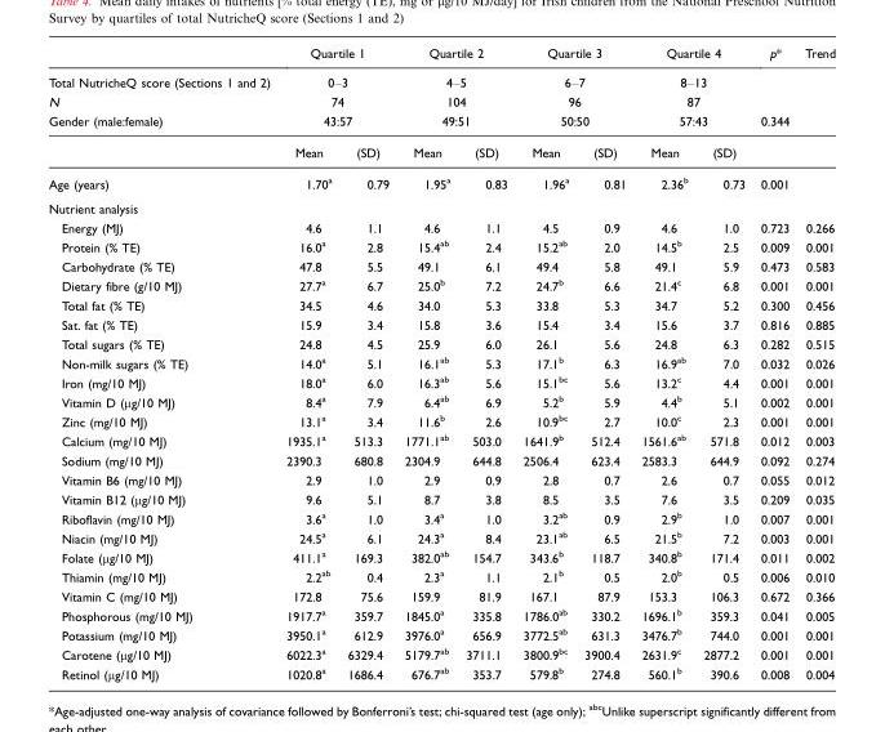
<table><thead><tr><td></td><td colspan="2">Quartile 1</td><td colspan="2">Quartile 2</td><td colspan="2">Quartile 3</td><td colspan="2">Quartile 4</td><td>p*</td><td>Trend</td></tr></thead><tbody><tr><td>Total NutricheQ score (Sections 1 and 2)</td><td colspan="2">0–3</td><td colspan="2">4–5</td><td colspan="2">6–7</td><td colspan="2">8–13</td><td></td><td></td></tr><tr><td>N</td><td colspan="2">74</td><td colspan="2">104</td><td colspan="2">96</td><td colspan="2">87</td><td></td><td></td></tr><tr><td rowspan="2">Gender (male:female)</td><td colspan="2">43:57</td><td colspan="2">49:51</td><td colspan="2">50:50</td><td colspan="2">57:43</td><td>0.344</td><td></td></tr><tr><td>Mean</td><td>(SD)</td><td>Mean</td><td>(SD)</td><td>Mean</td><td>(SD)</td><td>Mean</td><td>(SD)</td><td></td><td></td></tr><tr><td>Age (years)</td><td>1.70<sup>a</sup></td><td>0.79</td><td>1.95<sup>a</sup></td><td>0.83</td><td>1.96<sup>a</sup></td><td>0.81</td><td>2.36<sup>b</sup></td><td>0.73</td><td>0.001</td><td></td></tr><tr><td colspan="11">Nutrient analysis</td></tr><tr><td>Energy (MJ)</td><td>4.6</td><td>1.1</td><td>4.6</td><td>1.1</td><td>4.5</td><td>0.9</td><td>4.6</td><td>1.0</td><td>0.723</td><td>0.266</td></tr><tr><td>Protein (% TE)</td><td>16.0<sup>a</sup></td><td>2.8</td><td>15.4<sup>ab</sup></td><td>2.4</td><td>15.2<sup>ab</sup></td><td>2.0</td><td>14.5<sup>b</sup></td><td>2.5</td><td>0.009</td><td>0.001</td></tr><tr><td>Carbohydrate (% TE)</td><td>47.8</td><td>5.5</td><td>49.1</td><td>6.1</td><td>49.4</td><td>5.8</td><td>49.1</td><td>5.9</td><td>0.473</td><td>0.583</td></tr><tr><td>Dietary fibre (g/10 MJ)</td><td>27.7<sup>a</sup></td><td>6.7</td><td>25.0<sup>b</sup></td><td>7.2</td><td>24.7<sup>b</sup></td><td>6.6</td><td>21.4<sup>c</sup></td><td>6.8</td><td>0.001</td><td>0.001</td></tr><tr><td>Total fat (% TE)</td><td>34.5</td><td>4.6</td><td>34.0</td><td>5.3</td><td>33.8</td><td>5.3</td><td>34.7</td><td>5.2</td><td>0.300</td><td>0.456</td></tr><tr><td>Sat. fat (% TE)</td><td>15.9</td><td>3.4</td><td>15.8</td><td>3.6</td><td>15.4</td><td>3.4</td><td>15.6</td><td>3.7</td><td>0.816</td><td>0.885</td></tr><tr><td>Total sugars (% TE)</td><td>24.8</td><td>4.5</td><td>25.9</td><td>6.0</td><td>26.1</td><td>5.6</td><td>24.8</td><td>6.3</td><td>0.282</td><td>0.515</td></tr><tr><td>Non-milk sugars (% TE)</td><td>14.0<sup>a</sup></td><td>5.1</td><td>16.1<sup>ab</sup></td><td>5.3</td><td>17.1<sup>b</sup></td><td>6.3</td><td>16.9<sup>ab</sup></td><td>7.0</td><td>0.032</td><td>0.026</td></tr><tr><td>Iron (mg/10 MJ)</td><td>18.0<sup>a</sup></td><td>6.0</td><td>16.3<sup>ab</sup></td><td>5.6</td><td>15.1<sup>bc</sup></td><td>5.6</td><td>13.2<sup>c</sup></td><td>4.4</td><td>0.001</td><td>0.001</td></tr><tr><td>Vitamin D (µg/10 MJ)</td><td>8.4<sup>a</sup></td><td>7.9</td><td>6.4<sup>ab</sup></td><td>6.9</td><td>5.2<sup>b</sup></td><td>5.9</td><td>4.4<sup>b</sup></td><td>5.1</td><td>0.002</td><td>0.001</td></tr><tr><td>Zinc (mg/10 MJ)</td><td>13.1<sup>a</sup></td><td>3.4</td><td>11.6<sup>b</sup></td><td>2.6</td><td>10.9<sup>bc</sup></td><td>2.7</td><td>10.0<sup>c</sup></td><td>2.3</td><td>0.001</td><td>0.001</td></tr><tr><td>Calcium (mg/10 MJ)</td><td>1935.1<sup>a</sup></td><td>513.3</td><td>1771.1<sup>ab</sup></td><td>503.0</td><td>1641.9<sup>b</sup></td><td>512.4</td><td>1561.6<sup>ab</sup></td><td>571.8</td><td>0.012</td><td>0.003</td></tr><tr><td>Sodium (mg/10 MJ)</td><td>2390.3</td><td>680.8</td><td>2304.9</td><td>644.8</td><td>2506.4</td><td>623.4</td><td>2583.3</td><td>644.9</td><td>0.092</td><td>0.274</td></tr><tr><td>Vitamin B6 (mg/10 MJ)</td><td>2.9</td><td>1.0</td><td>2.9</td><td>0.9</td><td>2.8</td><td>0.7</td><td>2.6</td><td>0.7</td><td>0.055</td><td>0.012</td></tr><tr><td>Vitamin B12 (µg/10 MJ)</td><td>9.6</td><td>5.1</td><td>8.7</td><td>3.8</td><td>8.5</td><td>3.5</td><td>7.6</td><td>3.5</td><td>0.209</td><td>0.035</td></tr><tr><td>Riboflavin (mg/10 MJ)</td><td>3.6<sup>a</sup></td><td>1.0</td><td>3.4<sup>a</sup></td><td>1.0</td><td>3.2<sup>ab</sup></td><td>0.9</td><td>2.9<sup>b</sup></td><td>1.0</td><td>0.007</td><td>0.001</td></tr><tr><td>Niacin (mg/10 MJ)</td><td>24.5<sup>a</sup></td><td>6.1</td><td>24.3<sup>a</sup></td><td>8.4</td><td>23.1<sup>ab</sup></td><td>6.5</td><td>21.5<sup>b</sup></td><td>7.2</td><td>0.003</td><td>0.001</td></tr><tr><td>Folate (µg/10 MJ)</td><td>411.1<sup>a</sup></td><td>169.3</td><td>382.0<sup>ab</sup></td><td>154.7</td><td>343.6<sup>b</sup></td><td>118.7</td><td>340.8<sup>b</sup></td><td>171.4</td><td>0.011</td><td>0.002</td></tr><tr><td>Thiamin (mg/10 MJ)</td><td>2.2<sup>ab</sup></td><td>0.4</td><td>2.3<sup>a</sup></td><td>1.1</td><td>2.1<sup>b</sup></td><td>0.5</td><td>2.0<sup>b</sup></td><td>0.5</td><td>0.006</td><td>0.010</td></tr><tr><td>Vitamin C (mg/10 MJ)</td><td>172.8</td><td>75.6</td><td>159.9</td><td>81.9</td><td>167.1</td><td>87.9</td><td>153.3</td><td>106.3</td><td>0.672</td><td>0.366</td></tr><tr><td>Phosphorous (mg/10 MJ)</td><td>1917.7<sup>a</sup></td><td>359.7</td><td>1845.0<sup>a</sup></td><td>335.8</td><td>1786.0<sup>ab</sup></td><td>330.2</td><td>1696.1<sup>b</sup></td><td>359.3</td><td>0.041</td><td>0.005</td></tr><tr><td>Potassium (mg/10 MJ)</td><td>3950.1<sup>a</sup></td><td>612.9</td><td>3976.0<sup>a</sup></td><td>656.9</td><td>3772.5<sup>ab</sup></td><td>631.3</td><td>3476.7<sup>b</sup></td><td>744.0</td><td>0.001</td><td>0.001</td></tr><tr><td>Carotene (µg/10 MJ)</td><td>6022.3<sup>a</sup></td><td>6329.4</td><td>5179.7<sup>ab</sup></td><td>3711.1</td><td>3800.9<sup>bc</sup></td><td>3900.4</td><td>2631.9<sup>c</sup></td><td>2877.2</td><td>0.001</td><td>0.001</td></tr><tr><td>Retinol (µg/10 MJ)</td><td>1020.8<sup>a</sup></td><td>1686.4</td><td>676.7<sup>ab</sup></td><td>353.7</td><td>579.8<sup>b</sup></td><td>274.8</td><td>560.1<sup>b</sup></td><td>390.6</td><td>0.008</td><td>0.004</td></tr></tbody></table>